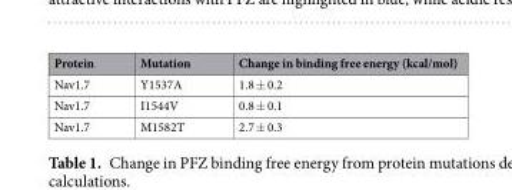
<table><thead><tr><td>Protein</td><td>Mutation</td><td>Change in binding free energy (kcal/mol)</td></tr></thead><tbody><tr><td>Nav1.7</td><td>Y1537A</td><td>1.8 ± 0.2</td></tr><tr><td>Nav1.7</td><td>I1544V</td><td>0.8 ± 0.1</td></tr><tr><td>Nav1.7</td><td>M1582T</td><td>2.7 ± 0.3</td></tr></tbody></table>